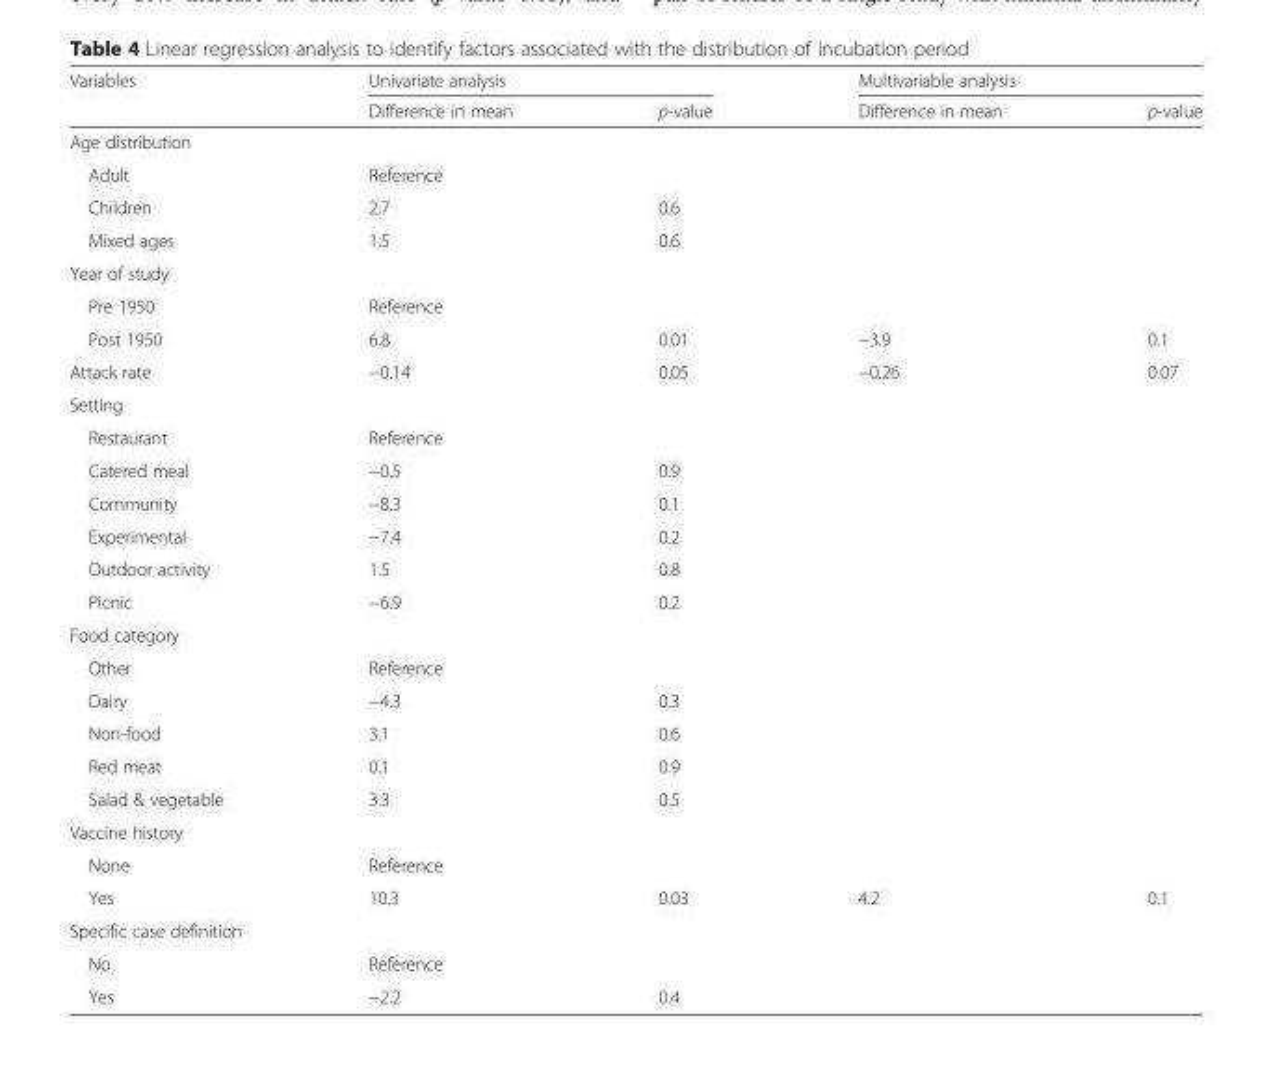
<table><thead><tr><td rowspan="2">Variables</td><td colspan="2">Univariate analysis</td><td colspan="2">Multivariable analysis</td></tr><tr><td>Difference in mean</td><td>p-value</td><td>Difference in mean</td><td>p-value</td></tr></thead><tbody><tr><td colspan="5">Age distribution</td></tr><tr><td>Adult</td><td>Reference</td><td></td><td></td><td></td></tr><tr><td>Children</td><td>2.7</td><td>0.6</td><td></td><td></td></tr><tr><td>Mixed ages</td><td>1.5</td><td>0.6</td><td></td><td></td></tr><tr><td colspan="5">Year of study</td></tr><tr><td>Pre 1950</td><td>Reference</td><td></td><td></td><td></td></tr><tr><td>Post 1950</td><td>6.8</td><td>0.01</td><td>−3.9</td><td>0.1</td></tr><tr><td>Attack rate</td><td>−0.14</td><td>0.05</td><td>−0.26</td><td>0.07</td></tr><tr><td colspan="5">Setting</td></tr><tr><td>Restaurant</td><td>Reference</td><td></td><td></td><td></td></tr><tr><td>Catered meal</td><td>−0.5</td><td>0.9</td><td></td><td></td></tr><tr><td>Community</td><td>−8.3</td><td>0.1</td><td></td><td></td></tr><tr><td>Experimental</td><td>−7.4</td><td>0.2</td><td></td><td></td></tr><tr><td>Outdoor activity</td><td>1.5</td><td>0.8</td><td></td><td></td></tr><tr><td>Picnic</td><td>−6.9</td><td>0.2</td><td></td><td></td></tr><tr><td colspan="5">Food category</td></tr><tr><td>Other</td><td>Reference</td><td></td><td></td><td></td></tr><tr><td>Dairy</td><td>−4.3</td><td>0.3</td><td></td><td></td></tr><tr><td>Non-food</td><td>3.1</td><td>0.6</td><td></td><td></td></tr><tr><td>Red meat</td><td>0.1</td><td>0.9</td><td></td><td></td></tr><tr><td>Salad &amp; vegetable</td><td>3.3</td><td>0.5</td><td></td><td></td></tr><tr><td colspan="5">Vaccine history</td></tr><tr><td>None</td><td>Reference</td><td></td><td></td><td></td></tr><tr><td>Yes</td><td>10.3</td><td>0.03</td><td>4.2</td><td>0.1</td></tr><tr><td colspan="5">Specific case definition</td></tr><tr><td>No</td><td>Reference</td><td></td><td></td><td></td></tr><tr><td>Yes</td><td>−2.2</td><td>0.4</td><td></td><td></td></tr></tbody></table>